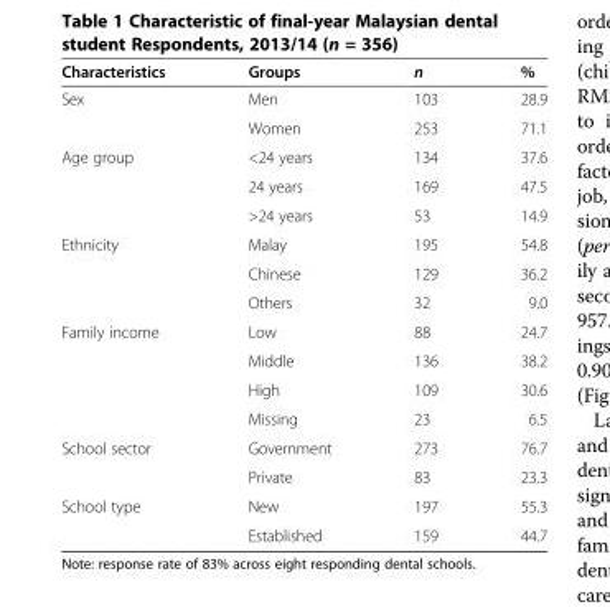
<table><thead><tr><td>Characteristics</td><td>Groups</td><td>n</td><td>%</td></tr></thead><tbody><tr><td rowspan="2">Sex</td><td>Men</td><td>103</td><td>28.9</td></tr><tr><td>Women</td><td>253</td><td>71.1</td></tr><tr><td rowspan="3">Age group</td><td>&lt;24 years</td><td>134</td><td>37.6</td></tr><tr><td>24 years</td><td>169</td><td>47.5</td></tr><tr><td>&gt;24 years</td><td>53</td><td>14.9</td></tr><tr><td rowspan="3">Ethnicity</td><td>Malay</td><td>195</td><td>54.8</td></tr><tr><td>Chinese</td><td>129</td><td>36.2</td></tr><tr><td>Others</td><td>32</td><td>9.0</td></tr><tr><td rowspan="4">Family income</td><td>Low</td><td>88</td><td>24.7</td></tr><tr><td>Middle</td><td>136</td><td>38.2</td></tr><tr><td>High</td><td>109</td><td>30.6</td></tr><tr><td>Missing</td><td>23</td><td>6.5</td></tr><tr><td rowspan="2">School sector</td><td>Government</td><td>273</td><td>76.7</td></tr><tr><td>Private</td><td>83</td><td>23.3</td></tr><tr><td rowspan="2">School type</td><td>New</td><td>197</td><td>55.3</td></tr><tr><td>Established</td><td>159</td><td>44.7</td></tr></tbody></table>